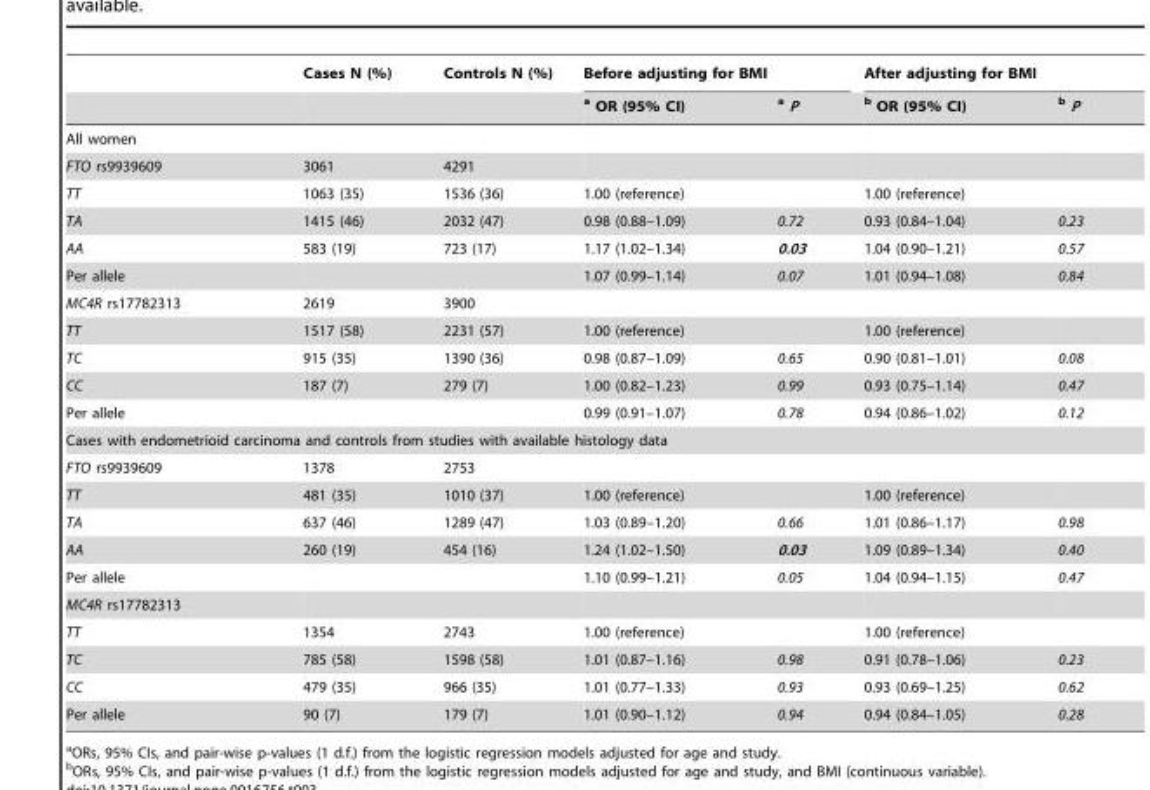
<table><thead><tr><td rowspan="2"></td><td rowspan="2">Cases N (%)</td><td rowspan="2">Controls N (%)</td><td colspan="2">Before adjusting for BMI</td><td colspan="2">After adjusting for BMI</td></tr><tr><td>a OR (95% CI)</td><td>a P</td><td>b OR (95% CI)</td><td>b P</td></tr></thead><tbody><tr><td colspan="7">All women</td></tr><tr><td>FTO rs9939609</td><td>3061</td><td>4291</td><td></td><td></td><td></td><td></td></tr><tr><td>TT</td><td>1063 (35)</td><td>1536 (36)</td><td>1.00 (reference)</td><td></td><td>1.00 (reference)</td><td></td></tr><tr><td>TA</td><td>1415 (46)</td><td>2032 (47)</td><td>0.98 (0.88–1.09)</td><td>0.72</td><td>0.93 (0.84–1.04)</td><td>0.23</td></tr><tr><td>AA</td><td>583 (19)</td><td>723 (17)</td><td>1.17 (1.02–1.34)</td><td>0.03</td><td>1.04 (0.90–1.21)</td><td>0.57</td></tr><tr><td>Per allele</td><td></td><td></td><td>1.07 (0.99–1.14)</td><td>0.07</td><td>1.01 (0.94–1.08)</td><td>0.84</td></tr><tr><td>MC4R rs17782313</td><td>2619</td><td>3900</td><td></td><td></td><td></td><td></td></tr><tr><td>TT</td><td>1517 (58)</td><td>2231 (57)</td><td>1.00 (reference)</td><td></td><td>1.00 (reference)</td><td></td></tr><tr><td>TC</td><td>915 (35)</td><td>1390 (36)</td><td>0.98 (0.87–1.09)</td><td>0.65</td><td>0.90 (0.81–1.01)</td><td>0.08</td></tr><tr><td>CC</td><td>187 (7)</td><td>279 (7)</td><td>1.00 (0.82–1.23)</td><td>0.99</td><td>0.93 (0.75–1.14)</td><td>0.47</td></tr><tr><td>Per allele</td><td></td><td></td><td>0.99 (0.91–1.07)</td><td>0.78</td><td>0.94 (0.86–1.02)</td><td>0.12</td></tr><tr><td colspan="7">Cases with endometrioid carcinoma and controls from studies with available histology data</td></tr><tr><td>FTO rs9939609</td><td>1378</td><td>2753</td><td></td><td></td><td></td><td></td></tr><tr><td>TT</td><td>481 (35)</td><td>1010 (37)</td><td>1.00 (reference)</td><td></td><td>1.00 (reference)</td><td></td></tr><tr><td>TA</td><td>637 (46)</td><td>1289 (47)</td><td>1.03 (0.89–1.20)</td><td>0.66</td><td>1.01 (0.86–1.17)</td><td>0.98</td></tr><tr><td>AA</td><td>260 (19)</td><td>454 (16)</td><td>1.24 (1.02–1.50)</td><td>0.03</td><td>1.09 (0.89–1.34)</td><td>0.40</td></tr><tr><td>Per allele</td><td></td><td></td><td>1.10 (0.99–1.21)</td><td>0.05</td><td>1.04 (0.94–1.15)</td><td>0.47</td></tr><tr><td colspan="7">MC4R rs17782313</td></tr><tr><td>TT</td><td>1354</td><td>2743</td><td>1.00 (reference)</td><td></td><td>1.00 (reference)</td><td></td></tr><tr><td>TC</td><td>785 (58)</td><td>1598 (58)</td><td>1.01 (0.87–1.16)</td><td>0.98</td><td>0.91 (0.78–1.06)</td><td>0.23</td></tr><tr><td>CC</td><td>479 (35)</td><td>966 (35)</td><td>1.01 (0.77–1.33)</td><td>0.93</td><td>0.93 (0.69–1.25)</td><td>0.62</td></tr><tr><td>Per allele</td><td>90 (7)</td><td>179 (7)</td><td>1.01 (0.90–1.12)</td><td>0.94</td><td>0.94 (0.84–1.05)</td><td>0.28</td></tr></tbody></table>